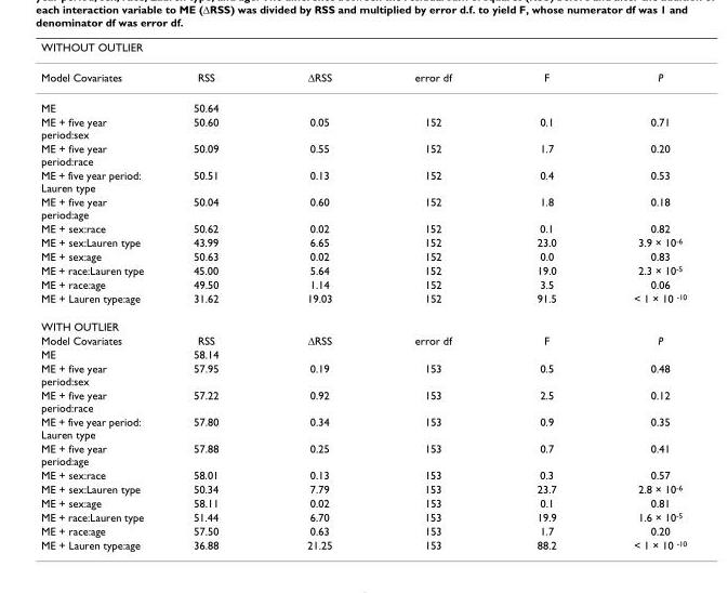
<table><thead><tr><td>WITHOUT OUTLIER</td><td></td><td></td><td></td><td></td><td></td></tr></thead><tbody><tr><td>Model Covariates</td><td>RSS</td><td>∆RSS</td><td>error df</td><td>F</td><td>P</td></tr><tr><td>ME</td><td>50.64</td><td></td><td></td><td></td><td></td></tr><tr><td>ME + five year period:sex</td><td>50.60</td><td>0.05</td><td>152</td><td>0.1</td><td>0.71</td></tr><tr><td>ME + five year period:race</td><td>50.09</td><td>0.55</td><td>152</td><td>1.7</td><td>0.20</td></tr><tr><td>ME + five year period: Lauren type</td><td>50.51</td><td>0.13</td><td>152</td><td>0.4</td><td>0.53</td></tr><tr><td>ME + five year period:age</td><td>50.04</td><td>0.60</td><td>152</td><td>1.8</td><td>0.18</td></tr><tr><td>ME + sex:race</td><td>50.62</td><td>0.02</td><td>152</td><td>0.1</td><td>0.82</td></tr><tr><td>ME + sex:Lauren type</td><td>43.99</td><td>6.65</td><td>152</td><td>23.0</td><td>3.9 × 10-6</td></tr><tr><td>ME + sex:age</td><td>50.63</td><td>0.02</td><td>152</td><td>0.0</td><td>0.83</td></tr><tr><td>ME + race:Lauren type</td><td>45.00</td><td>5.64</td><td>152</td><td>19.0</td><td>2.3 × 10-5</td></tr><tr><td>ME + race:age</td><td>49.50</td><td>1.14</td><td>152</td><td>3.5</td><td>0.06</td></tr><tr><td>ME + Lauren type:age</td><td>31.62</td><td>19.03</td><td>152</td><td>91.5</td><td>&lt; 1 × 10 -10</td></tr><tr><td colspan="6">WITH OUTLIER</td></tr><tr><td>Model Covariates</td><td>RSS</td><td>∆RSS</td><td>error df</td><td>F</td><td>P</td></tr><tr><td>ME</td><td>58.14</td><td></td><td></td><td></td><td></td></tr><tr><td>ME + five year period:sex</td><td>57.95</td><td>0.19</td><td>153</td><td>0.5</td><td>0.48</td></tr><tr><td>ME + five year period:race</td><td>57.22</td><td>0.92</td><td>153</td><td>2.5</td><td>0.12</td></tr><tr><td>ME + five year period: Lauren type</td><td>57.80</td><td>0.34</td><td>153</td><td>0.9</td><td>0.35</td></tr><tr><td>ME + five year period:age</td><td>57.88</td><td>0.25</td><td>153</td><td>0.7</td><td>0.41</td></tr><tr><td>ME + sex:race</td><td>58.01</td><td>0.13</td><td>153</td><td>0.3</td><td>0.57</td></tr><tr><td>ME + sex:Lauren type</td><td>50.34</td><td>7.79</td><td>153</td><td>23.7</td><td>2.8 × 10-6</td></tr><tr><td>ME + sex:age</td><td>58.11</td><td>0.02</td><td>153</td><td>0.1</td><td>0.81</td></tr><tr><td>ME + race:Lauren type</td><td>51.44</td><td>6.70</td><td>153</td><td>19.9</td><td>1.6 × 10-5</td></tr><tr><td>ME + race:age</td><td>57.50</td><td>0.63</td><td>153</td><td>1.7</td><td>0.20</td></tr><tr><td>ME + Lauren type:age</td><td>36.88</td><td>21.25</td><td>153</td><td>88.2</td><td>&lt; 1 × 10 -10</td></tr></tbody></table>